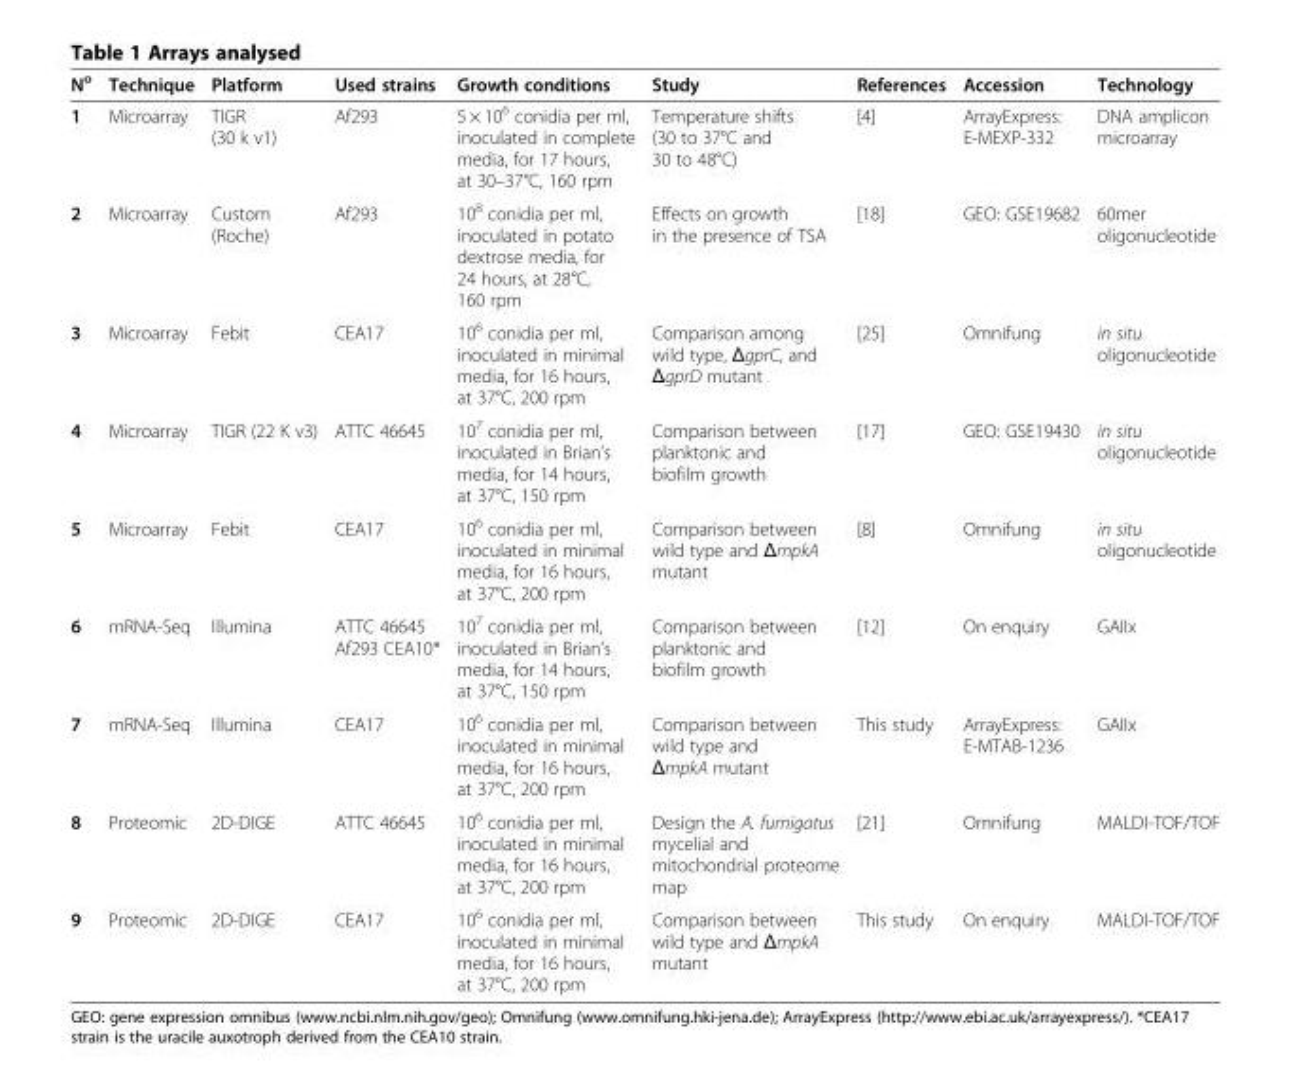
<table><thead><tr><td>N<sup>o</sup></td><td>Technique</td><td>Platform</td><td>Used strains</td><td>Growth conditions</td><td>Study</td><td>References</td><td>Accession</td><td>Technology</td></tr></thead><tbody><tr><td>1</td><td>Microarray</td><td>TIGR (30 k v1)</td><td>Af293</td><td>5 × 10<sup>6</sup> conidia per ml, inoculated in complete media, for 17 hours, at 30–37°C, 160 rpm</td><td>Temperature shifts (30 to 37°C and 30 to 48°C)</td><td>[4]</td><td>ArrayExpress: E-MEXP-332</td><td>DNA amplicon microarray</td></tr><tr><td>2</td><td>Microarray</td><td>Custom (Roche)</td><td>Af293</td><td>10<sup>8</sup> conidia per ml, inoculated in potato dextrose media, for 24 hours, at 28°C, 160 rpm</td><td>Effects on growth in the presence of TSA</td><td>[18]</td><td>GEO: GSE19682</td><td>60mer oligonucleotide</td></tr><tr><td>3</td><td>Microarray</td><td>Febit</td><td>CEA17</td><td>10<sup>6</sup> conidia per ml, inoculated in minimal media, for 16 hours, at 37°C, 200 rpm</td><td>Comparison among wild type, ΔgprC, and ΔgprD mutant</td><td>[25]</td><td>Omnifung</td><td>in situ oligonucleotide</td></tr><tr><td>4</td><td>Microarray</td><td>TIGR (22 K v3)</td><td>ATTC 46645</td><td>10<sup>7</sup> conidia per ml, inoculated in Brian’s media, for 14 hours, at 37°C, 150 rpm</td><td>Comparison between planktonic and biofilm growth</td><td>[17]</td><td>GEO: GSE19430</td><td>in situ oligonucleotide</td></tr><tr><td>5</td><td>Microarray</td><td>Febit</td><td>CEA17</td><td>10<sup>6</sup> conidia per ml, inoculated in minimal media, for 16 hours, at 37°C, 200 rpm</td><td>Comparison between wild type and ΔmpkA mutant</td><td>[8]</td><td>Omnifung</td><td>in situ oligonucleotide</td></tr><tr><td>6</td><td>mRNA-Seq</td><td>Illumina</td><td>ATTC 46645 Af293 CEA10*</td><td>10<sup>7</sup> conidia per ml, inoculated in Brian’s media, for 14 hours, at 37°C, 150 rpm</td><td>Comparison between planktonic and biofilm growth</td><td>[12]</td><td>On enquiry</td><td>GAIIx</td></tr><tr><td>7</td><td>mRNA-Seq</td><td>Illumina</td><td>CEA17</td><td>10<sup>6</sup> conidia per ml, inoculated in minimal media, for 16 hours, at 37°C, 200 rpm</td><td>Comparison between wild type and ΔmpkA mutant</td><td>This study</td><td>ArrayExpress: E-MTAB-1236</td><td>GAIIx</td></tr><tr><td>8</td><td>Proteomic</td><td>2D-DIGE</td><td>ATTC 46645</td><td>10<sup>6</sup> conidia per ml, inoculated in minimal media, for 16 hours, at 37°C, 200 rpm</td><td>Design the A. fumigatus mycelial and mitochondrial proteome map</td><td>[21]</td><td>Omnifung</td><td>MALDI-TOF/TOF</td></tr><tr><td>9</td><td>Proteomic</td><td>2D-DIGE</td><td>CEA17</td><td>10<sup>6</sup> conidia per ml, inoculated in minimal media, for 16 hours, at 37°C, 200 rpm</td><td>Comparison between wild type and ΔmpkA mutant</td><td>This study</td><td>On enquiry</td><td>MALDI-TOF/TOF</td></tr></tbody></table>